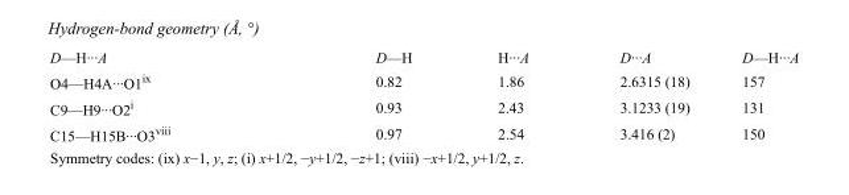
<table><tbody><tr><td>D—H···A</td><td>D—H</td><td>H···A</td><td>D···A</td><td>D—H···A</td></tr><tr><td>O4—H4A···O1<sup>ix</sup></td><td>0.82</td><td>1.86</td><td>2.6315 (18)</td><td>157</td></tr><tr><td>C9—H9···O2<sup>i</sup></td><td>0.93</td><td>2.43</td><td>3.1233 (19)</td><td>131</td></tr><tr><td>C15—H15B···O3<sup>viii</sup></td><td>0.97</td><td>2.54</td><td>3.416 (2)</td><td>150</td></tr></tbody></table>